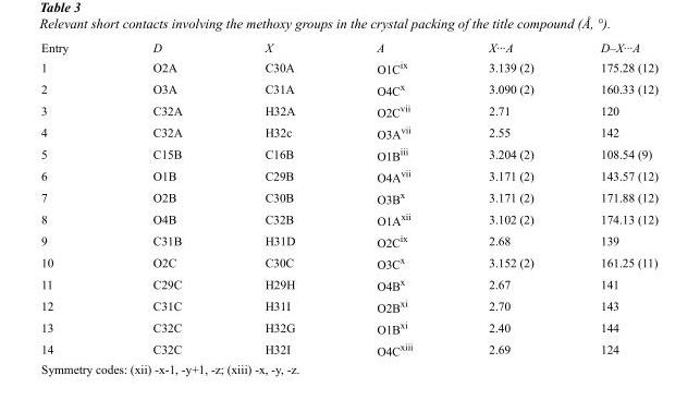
<table><tbody><tr><td>Entry</td><td>D</td><td>X</td><td>A</td><td>X···A</td><td>D–X···A</td></tr><tr><td>1</td><td>O2A</td><td>C30A</td><td>O1C<sup>ix</sup></td><td>3.139 (2)</td><td>175.28 (12)</td></tr><tr><td>2</td><td>O3A</td><td>C31A</td><td>O4C<sup>x</sup></td><td>3.090 (2)</td><td>160.33 (12)</td></tr><tr><td>3</td><td>C32A</td><td>H32A</td><td>O2C<sup>vii</sup></td><td>2.71</td><td>120</td></tr><tr><td>4</td><td>C32A</td><td>H32c</td><td>O3A<sup>vii</sup></td><td>2.55</td><td>142</td></tr><tr><td>5</td><td>C15B</td><td>C16B</td><td>O1B<sup>iii</sup></td><td>3.204 (2)</td><td>108.54 (9)</td></tr><tr><td>6</td><td>O1B</td><td>C29B</td><td>O4A<sup>vii</sup></td><td>3.171 (2)</td><td>143.57 (12)</td></tr><tr><td>7</td><td>O2B</td><td>C30B</td><td>O3B<sup>x</sup></td><td>3.171 (2)</td><td>171.88 (12)</td></tr><tr><td>8</td><td>O4B</td><td>C32B</td><td>O1A<sup>xii</sup></td><td>3.102 (2)</td><td>174.13 (12)</td></tr><tr><td>9</td><td>C31B</td><td>H31D</td><td>O2C<sup>ix</sup></td><td>2.68</td><td>139</td></tr><tr><td>10</td><td>O2C</td><td>C30C</td><td>O3C<sup>x</sup></td><td>3.152 (2)</td><td>161.25 (11)</td></tr><tr><td>11</td><td>C29C</td><td>H29H</td><td>O4B<sup>x</sup></td><td>2.67</td><td>141</td></tr><tr><td>12</td><td>C31C</td><td>H31I</td><td>O2B<sup>xi</sup></td><td>2.70</td><td>143</td></tr><tr><td>13</td><td>C32C</td><td>H32G</td><td>O1B<sup>xi</sup></td><td>2.40</td><td>144</td></tr><tr><td>14</td><td>C32C</td><td>H32I</td><td>O4C<sup>xiii</sup></td><td>2.69</td><td>124</td></tr></tbody></table>